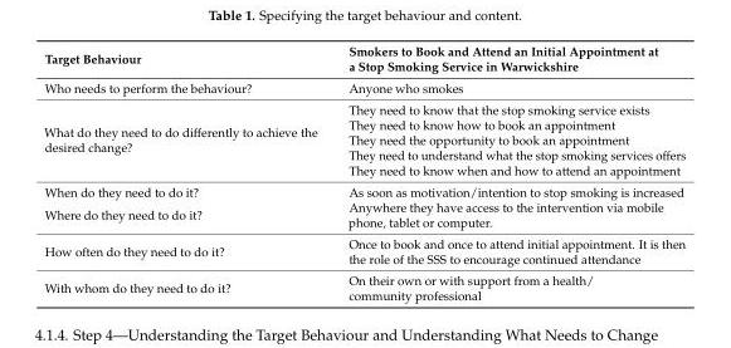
<table><thead><tr><td>Target Behaviour</td><td>Smokers to Book and Attend an Initial Appointment at a Stop Smoking Service in Warwickshire</td></tr></thead><tbody><tr><td>Who needs to perform the behaviour?</td><td>Anyone who smokes</td></tr><tr><td rowspan="5">What do they need to do differently to achieve the desired change?</td><td>They need to know that the stop smoking service exists</td></tr><tr><td>They need to know how to book an appointment</td></tr><tr><td>They need the opportunity to book an appointment</td></tr><tr><td>They need to understand what the stop smoking services offers</td></tr><tr><td>They need to know when and how to attend an appointment</td></tr><tr><td>When do they need to do it?</td><td>As soon as motivation/intention to stop smoking is increased</td></tr><tr><td>Where do they need to do it?</td><td>Anywhere they have access to the intervention via mobile phone, tablet or computer.</td></tr><tr><td>How often do they need to do it?</td><td>Once to book and once to attend initial appointment. It is then the role of the SSS to encourage continued attendance</td></tr><tr><td>With whom do they need to do it?</td><td>On their own or with support from a health/ community professional</td></tr></tbody></table>